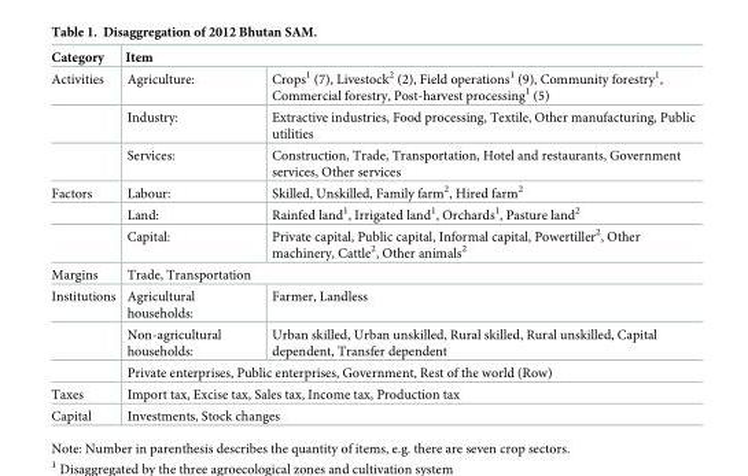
<table><thead><tr><td rowspan="2">Category Activities</td><td colspan="2">Item</td></tr><tr><td>Agriculture:</td><td>Crops<sup>1</sup> (7), Livestock<sup>2</sup> (2), Field operations<sup>1</sup> (9), Community forestry<sup>1</sup>, Commercial forestry, Post-harvest processing<sup>1</sup> (5)</td></tr></thead><tbody><tr><td></td><td>Industry:</td><td>Extractive industries, Food processing, Textile, Other manufacturing, Public utilities</td></tr><tr><td></td><td>Services:</td><td>Construction, Trade, Transportation, Hotel and restaurants, Government services, Other services</td></tr><tr><td rowspan="3">Factors</td><td>Labour:</td><td>Skilled, Unskilled, Family farm<sup>2</sup>, Hired farm<sup>2</sup></td></tr><tr><td>Land:</td><td>Rainfed land<sup>1</sup>, Irrigated land<sup>1</sup>, Orchards<sup>1</sup>, Pasture land<sup>2</sup></td></tr><tr><td>Capital:</td><td>Private capital, Public capital, Informal capital, Powertiller<sup>2</sup>, Other machinery, Cattle<sup>2</sup>, Other animals<sup>2</sup></td></tr><tr><td>Margins</td><td colspan="2">Trade, Transportation</td></tr><tr><td rowspan="3">Institutions</td><td>Agricultural households:</td><td>Farmer, Landless</td></tr><tr><td>Non-agricultural households:</td><td>Urban skilled, Urban unskilled, Rural skilled, Rural unskilled, Capital dependent, Transfer dependent</td></tr><tr><td colspan="2">Private enterprises, Public enterprises, Government, Rest of the world (Row)</td></tr><tr><td>Taxes</td><td colspan="2">Import tax, Excise tax, Sales tax, Income tax, Production tax</td></tr><tr><td>Capital</td><td colspan="2">Investments, Stock changes</td></tr></tbody></table>